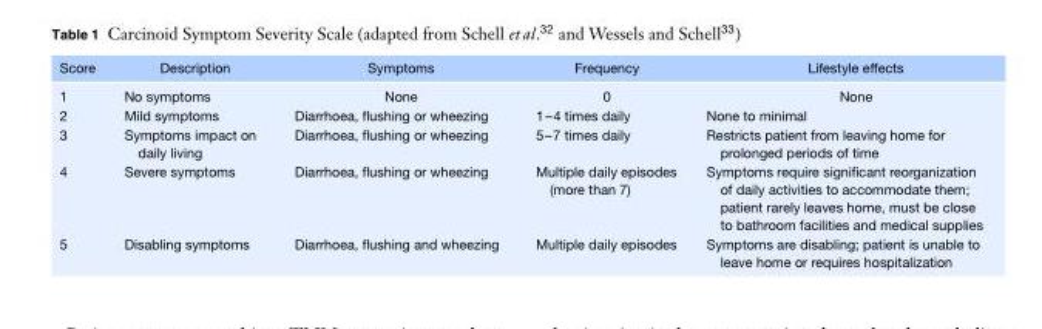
<table><thead><tr><td>Score</td><td>Description</td><td>Symptoms</td><td>Frequency</td><td>Lifestyle effects</td></tr></thead><tbody><tr><td>1</td><td>No symptoms</td><td>None</td><td>0</td><td>None</td></tr><tr><td>2</td><td>Mild symptoms</td><td>Diarrhoea, flushing or wheezing</td><td>1–4 times daily</td><td>None to minimal</td></tr><tr><td>3</td><td>Symptoms impact on daily living</td><td>Diarrhoea, flushing or wheezing</td><td>5–7 times daily</td><td>Restricts patient from leaving home for prolonged periods of time</td></tr><tr><td>4</td><td>Severe symptoms</td><td>Diarrhoea, flushing or wheezing</td><td>Multiple daily episodes (more than 7)</td><td>Symptoms require significant reorganization of daily activities to accommodate them; patient rarely leaves home, must be close to bathroom facilities and medical supplies</td></tr><tr><td>5</td><td>Disabling symptoms</td><td>Diarrhoea, flushing and wheezing</td><td>Multiple daily episodes</td><td>Symptoms are disabling; patient is unable to leave home or requires hospitalization</td></tr></tbody></table>